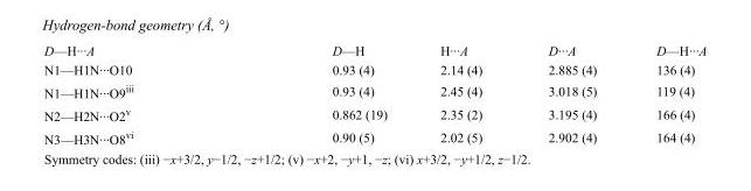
<table><tbody><tr><td>D—H···A</td><td>D—H</td><td>H···A</td><td>D···A</td><td>D—H···A</td></tr><tr><td>N1—H1N···O10</td><td>0.93 (4)</td><td>2.14 (4)</td><td>2.885 (4)</td><td>136 (4)</td></tr><tr><td>N1—H1N···O9<sup>iii</sup></td><td>0.93 (4)</td><td>2.45 (4)</td><td>3.018 (5)</td><td>119 (4)</td></tr><tr><td>N2—H2N···O2<sup>v</sup></td><td>0.862 (19)</td><td>2.35 (2)</td><td>3.195 (4)</td><td>166 (4)</td></tr><tr><td>N3—H3N···O8<sup>vi</sup></td><td>0.90 (5)</td><td>2.02 (5)</td><td>2.902 (4)</td><td>164 (4)</td></tr></tbody></table>